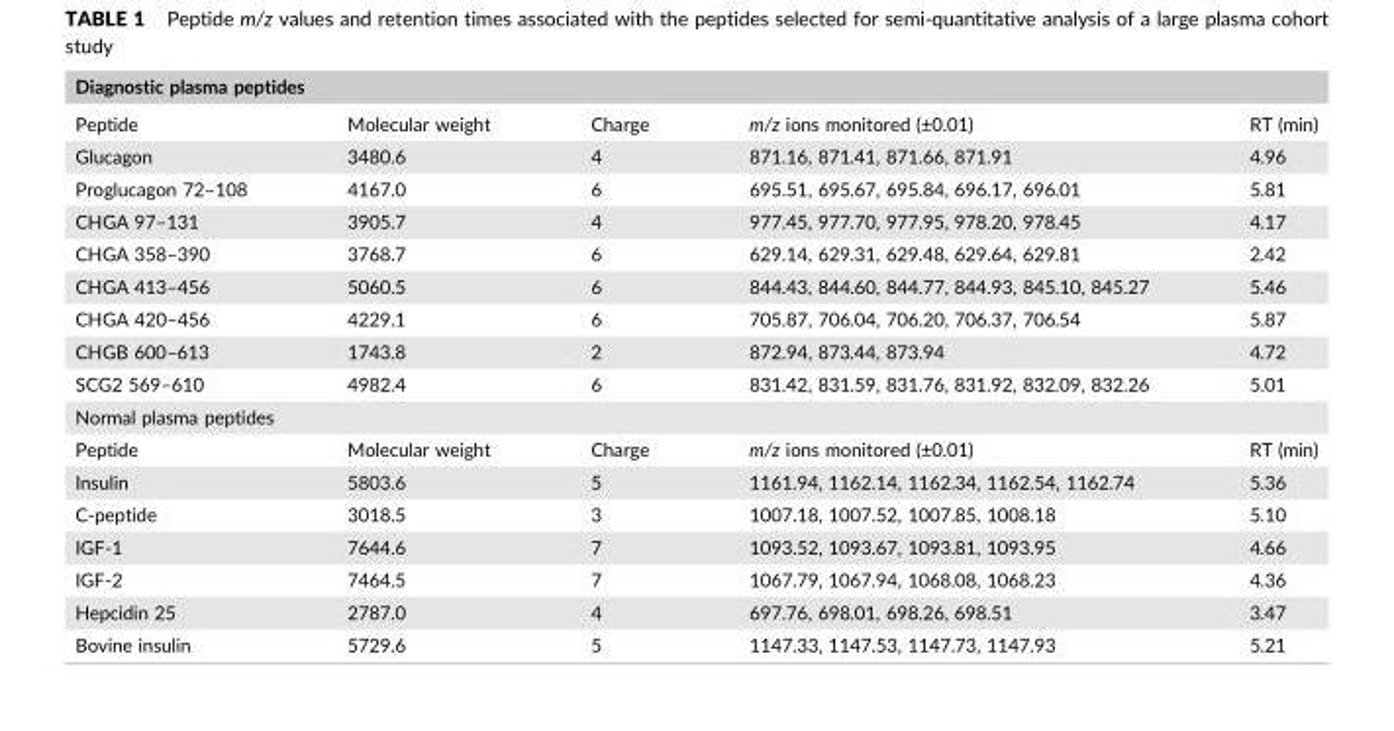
<table><thead><tr><td colspan="5">Diagnostic plasma peptides</td></tr><tr><td>Peptide</td><td>Molecular weight</td><td>Charge</td><td>m/z ions monitored (±0.01)</td><td>RT (min)</td></tr></thead><tbody><tr><td>Glucagon</td><td>3480.6</td><td>4</td><td>871.16, 871.41, 871.66, 871.91</td><td>4.96</td></tr><tr><td>Proglucagon 72–108</td><td>4167.0</td><td>6</td><td>695.51, 695.67, 695.84, 696.17, 696.01</td><td>5.81</td></tr><tr><td>CHGA 97–131</td><td>3905.7</td><td>4</td><td>977.45, 977.70, 977.95, 978.20, 978.45</td><td>4.17</td></tr><tr><td>CHGA 358–390</td><td>3768.7</td><td>6</td><td>629.14, 629.31, 629.48, 629.64, 629.81</td><td>2.42</td></tr><tr><td>CHGA 413–456</td><td>5060.5</td><td>6</td><td>844.43, 844.60, 844.77, 844.93, 845.10, 845.27</td><td>5.46</td></tr><tr><td>CHGA 420–456</td><td>4229.1</td><td>6</td><td>705.87, 706.04, 706.20, 706.37, 706.54</td><td>5.87</td></tr><tr><td>CHGB 600–613</td><td>1743.8</td><td>2</td><td>872.94, 873.44, 873.94</td><td>4.72</td></tr><tr><td>SCG2 569–610</td><td>4982.4</td><td>6</td><td>831.42, 831.59, 831.76, 831.92, 832.09, 832.26</td><td>5.01</td></tr><tr><td colspan="5">Normal plasma peptides</td></tr><tr><td>Peptide</td><td>Molecular weight</td><td>Charge</td><td>m/z ions monitored (±0.01)</td><td>RT (min)</td></tr><tr><td>Insulin</td><td>5803.6</td><td>5</td><td>1161.94, 1162.14, 1162.34, 1162.54, 1162.74</td><td>5.36</td></tr><tr><td>C‐peptide</td><td>3018.5</td><td>3</td><td>1007.18, 1007.52, 1007.85, 1008.18</td><td>5.10</td></tr><tr><td>IGF‐1</td><td>7644.6</td><td>7</td><td>1093.52, 1093.67, 1093.81, 1093.95</td><td>4.66</td></tr><tr><td>IGF‐2</td><td>7464.5</td><td>7</td><td>1067.79, 1067.94, 1068.08, 1068.23</td><td>4.36</td></tr><tr><td>Hepcidin 25</td><td>2787.0</td><td>4</td><td>697.76, 698.01, 698.26, 698.51</td><td>3.47</td></tr><tr><td>Bovine insulin</td><td>5729.6</td><td>5</td><td>1147.33, 1147.53, 1147.73, 1147.93</td><td>5.21</td></tr></tbody></table>